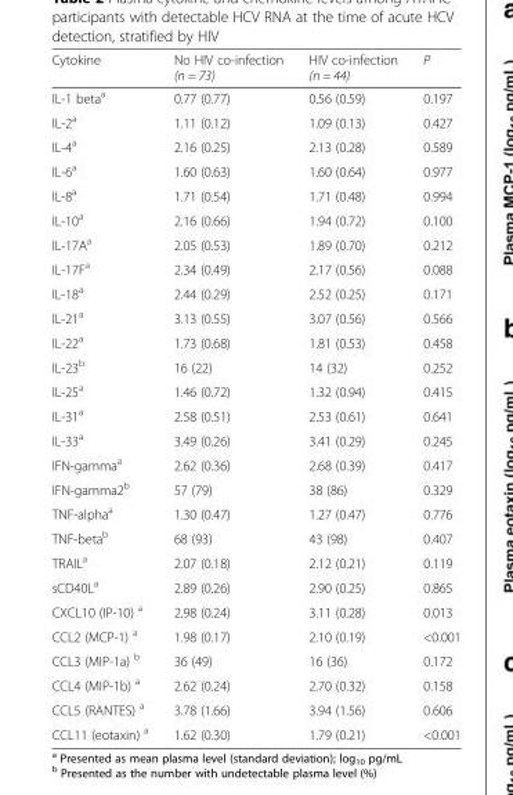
<table><thead><tr><td>Cytokine</td><td>No HIV co-infection (n = 73)</td><td>HIV co-infection (n = 44)</td><td>P</td></tr></thead><tbody><tr><td>IL-1 beta<sup>a</sup></td><td>0.77 (0.77)</td><td>0.56 (0.59)</td><td>0.197</td></tr><tr><td>IL-2<sup>a</sup></td><td>1.11 (0.12)</td><td>1.09 (0.13)</td><td>0.427</td></tr><tr><td>IL-4<sup>a</sup></td><td>2.16 (0.25)</td><td>2.13 (0.28)</td><td>0.589</td></tr><tr><td>IL-6<sup>a</sup></td><td>1.60 (0.63)</td><td>1.60 (0.64)</td><td>0.977</td></tr><tr><td>IL-8<sup>a</sup></td><td>1.71 (0.54)</td><td>1.71 (0.48)</td><td>0.994</td></tr><tr><td>IL-10<sup>a</sup></td><td>2.16 (0.66)</td><td>1.94 (0.72)</td><td>0.100</td></tr><tr><td>IL-17A<sup>a</sup></td><td>2.05 (0.53)</td><td>1.89 (0.70)</td><td>0.212</td></tr><tr><td>IL-17F<sup>a</sup></td><td>2.34 (0.49)</td><td>2.17 (0.56)</td><td>0.088</td></tr><tr><td>IL-18<sup>a</sup></td><td>2.44 (0.29)</td><td>2.52 (0.25)</td><td>0.171</td></tr><tr><td>IL-21<sup>a</sup></td><td>3.13 (0.55)</td><td>3.07 (0.56)</td><td>0.566</td></tr><tr><td>IL-22<sup>a</sup></td><td>1.73 (0.68)</td><td>1.81 (0.53)</td><td>0.458</td></tr><tr><td>IL-23<sup>b</sup></td><td>16 (22)</td><td>14 (32)</td><td>0.252</td></tr><tr><td>IL-25<sup>a</sup></td><td>1.46 (0.72)</td><td>1.32 (0.94)</td><td>0.415</td></tr><tr><td>IL-31<sup>a</sup></td><td>2.58 (0.51)</td><td>2.53 (0.61)</td><td>0.641</td></tr><tr><td>IL-33<sup>a</sup></td><td>3.49 (0.26)</td><td>3.41 (0.29)</td><td>0.245</td></tr><tr><td>IFN-gamma<sup>a</sup></td><td>2.62 (0.36)</td><td>2.68 (0.39)</td><td>0.417</td></tr><tr><td>IFN-gamma2<sup>b</sup></td><td>57 (79)</td><td>38 (86)</td><td>0.329</td></tr><tr><td>TNF-alpha<sup>a</sup></td><td>1.30 (0.47)</td><td>1.27 (0.47)</td><td>0.776</td></tr><tr><td>TNF-beta<sup>b</sup></td><td>68 (93)</td><td>43 (98)</td><td>0.407</td></tr><tr><td>TRAIL<sup>a</sup></td><td>2.07 (0.18)</td><td>2.12 (0.21)</td><td>0.119</td></tr><tr><td>sCD40L<sup>a</sup></td><td>2.89 (0.26)</td><td>2.90 (0.25)</td><td>0.865</td></tr><tr><td>CXCL10 (IP-10) <sup>a</sup></td><td>2.98 (0.24)</td><td>3.11 (0.28)</td><td>0.013</td></tr><tr><td>CCL2 (MCP-1) <sup>a</sup></td><td>1.98 (0.17)</td><td>2.10 (0.19)</td><td>&lt;0.001</td></tr><tr><td>CCL3 (MIP-1a) <sup>b</sup></td><td>36 (49)</td><td>16 (36)</td><td>0.172</td></tr><tr><td>CCL4 (MIP-1b) <sup>a</sup></td><td>2.62 (0.24)</td><td>2.70 (0.32)</td><td>0.158</td></tr><tr><td>CCL5 (RANTES) <sup>a</sup></td><td>3.78 (1.66)</td><td>3.94 (1.56)</td><td>0.606</td></tr><tr><td>CCL11 (eotaxin) <sup>a</sup></td><td>1.62 (0.30)</td><td>1.79 (0.21)</td><td>&lt;0.001</td></tr></tbody></table>